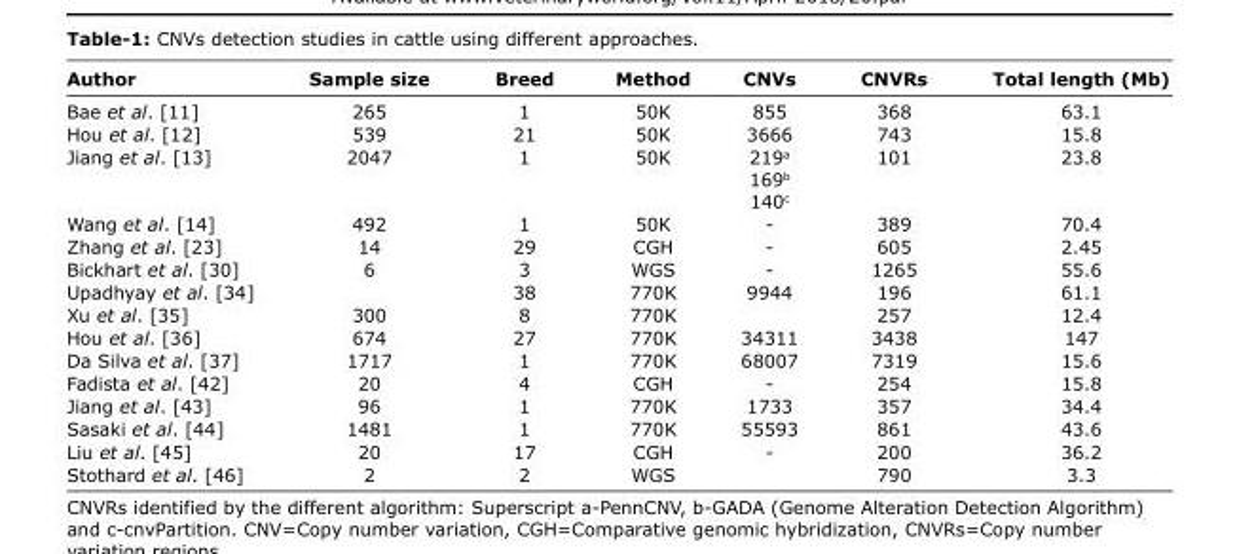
<table><thead><tr><td>Author</td><td>Sample size</td><td>Breed</td><td>Method</td><td>CNVs</td><td>CNVRs</td><td>Total length (Mb)</td></tr></thead><tbody><tr><td>Bae et al. [11]</td><td>265</td><td>1</td><td>50K</td><td>855</td><td>368</td><td>63.1</td></tr><tr><td>Hou et al. [12]</td><td>539</td><td>21</td><td>50K</td><td>3666</td><td>743</td><td>15.8</td></tr><tr><td>Jiang et al. [13]</td><td>2047</td><td>1</td><td>50K</td><td>219<sup>a</sup> 169<sup>b</sup> 140<sup>c</sup></td><td>101</td><td>23.8</td></tr><tr><td>Wang et al. [14]</td><td>492</td><td>1</td><td>50K</td><td>-</td><td>389</td><td>70.4</td></tr><tr><td>Zhang et al. [23]</td><td>14</td><td>29</td><td>CGH</td><td>-</td><td>605</td><td>2.45</td></tr><tr><td>Bickhart et al. [30]</td><td>6</td><td>3</td><td>WGS</td><td>-</td><td>1265</td><td>55.6</td></tr><tr><td>Upadhyay et al. [34]</td><td></td><td>38</td><td>770K</td><td>9944</td><td>196</td><td>61.1</td></tr><tr><td>Xu et al. [35]</td><td>300</td><td>8</td><td>770K</td><td></td><td>257</td><td>12.4</td></tr><tr><td>Hou et al. [36]</td><td>674</td><td>27</td><td>770K</td><td>34311</td><td>3438</td><td>147</td></tr><tr><td>Da Silva et al. [37]</td><td>1717</td><td>1</td><td>770K</td><td>68007</td><td>7319</td><td>15.6</td></tr><tr><td>Fadista et al. [42]</td><td>20</td><td>4</td><td>CGH</td><td>-</td><td>254</td><td>15.8</td></tr><tr><td>Jiang et al. [43]</td><td>96</td><td>1</td><td>770K</td><td>1733</td><td>357</td><td>34.4</td></tr><tr><td>Sasaki et al. [44]</td><td>1481</td><td>1</td><td>770K</td><td>55593</td><td>861</td><td>43.6</td></tr><tr><td>Liu et al. [45]</td><td>20</td><td>17</td><td>CGH</td><td>-</td><td>200</td><td>36.2</td></tr><tr><td>Stothard et al. [46]</td><td>2</td><td>2</td><td>WGS</td><td></td><td>790</td><td>3.3</td></tr></tbody></table>